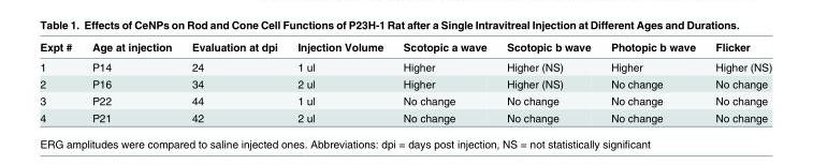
<table><thead><tr><td>Expt #</td><td>Age at injection</td><td>Evaluation at dpi</td><td>Injection Volume</td><td>Scotopic a wave</td><td>Scotopic b wave</td><td>Photopic b wave</td><td>Flicker</td></tr></thead><tbody><tr><td>1</td><td>P14</td><td>24</td><td>1 ul</td><td>Higher</td><td>Higher (NS)</td><td>Higher</td><td>Higher (NS)</td></tr><tr><td>2</td><td>P16</td><td>34</td><td>2 ul</td><td>Higher</td><td>Higher (NS)</td><td>No change</td><td>No change</td></tr><tr><td>3</td><td>P22</td><td>44</td><td>1 ul</td><td>No change</td><td>No change</td><td>No change</td><td>No change</td></tr><tr><td>4</td><td>P21</td><td>42</td><td>2 ul</td><td>No change</td><td>No change</td><td>No change</td><td>No change</td></tr></tbody></table>